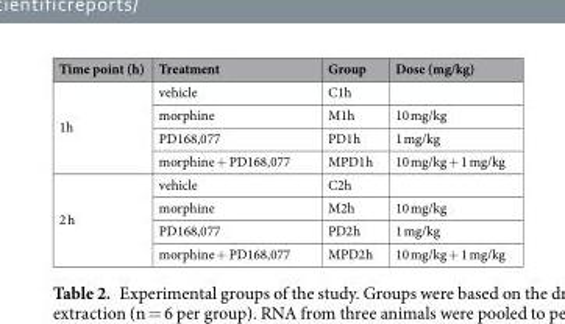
<table><thead><tr><td>Time point (h)</td><td>Treatment</td><td>Group</td><td>Dose (mg/kg)</td></tr></thead><tbody><tr><td rowspan="4">1h</td><td>vehicle</td><td>C1h</td><td></td></tr><tr><td>morphine</td><td>M1h</td><td>10 mg/kg</td></tr><tr><td>PD168,077</td><td>PD1h</td><td>1 mg/kg</td></tr><tr><td>morphine + PD168,077</td><td>MPD1h</td><td>10 mg/kg + 1 mg/kg</td></tr><tr><td rowspan="4">2 h</td><td>vehicle</td><td>C2h</td><td></td></tr><tr><td>morphine</td><td>M2h</td><td>10 mg/kg</td></tr><tr><td>PD168,077</td><td>PD2h</td><td>1 mg/kg</td></tr><tr><td>morphine + PD168,077</td><td>MPD2h</td><td>10 mg/kg + 1 mg/kg</td></tr></tbody></table>